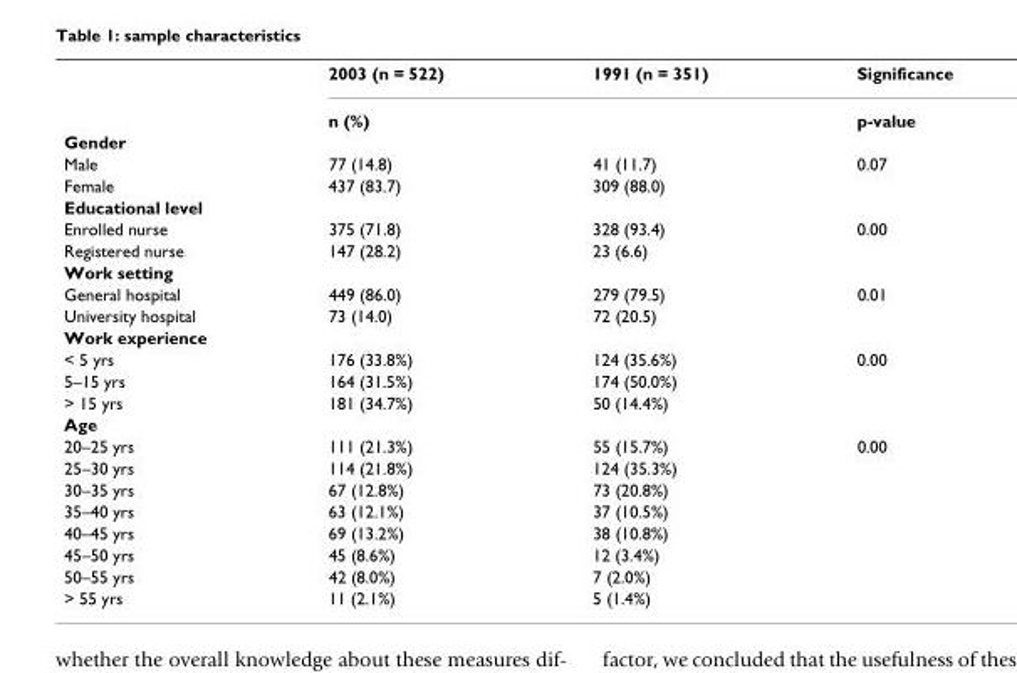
<table><thead><tr><td></td><td>2003 (n = 522)</td><td>1991 (n = 351)</td><td>Significance</td></tr></thead><tbody><tr><td></td><td>n (%)</td><td></td><td>p-value</td></tr><tr><td colspan="4">Gender</td></tr><tr><td>Male</td><td>77 (14.8)</td><td>41 (11.7)</td><td>0.07</td></tr><tr><td>Female</td><td>437 (83.7)</td><td>309 (88.0)</td><td></td></tr><tr><td colspan="4">Educational level</td></tr><tr><td>Enrolled nurse</td><td>375 (71.8)</td><td>328 (93.4)</td><td>0.00</td></tr><tr><td>Registered nurse</td><td>147 (28.2)</td><td>23 (6.6)</td><td></td></tr><tr><td colspan="4">Work setting</td></tr><tr><td>General hospital</td><td>449 (86.0)</td><td>279 (79.5)</td><td>0.01</td></tr><tr><td>University hospital</td><td>73 (14.0)</td><td>72 (20.5)</td><td></td></tr><tr><td colspan="4">Work experience</td></tr><tr><td>&lt; 5 yrs</td><td>176 (33.8%)</td><td>124 (35.6%)</td><td>0.00</td></tr><tr><td>5–15 yrs</td><td>164 (31.5%)</td><td>174 (50.0%)</td><td></td></tr><tr><td>&gt; 15 yrs</td><td>181 (34.7%)</td><td>50 (14.4%)</td><td></td></tr><tr><td colspan="4">Age</td></tr><tr><td>20–25 yrs</td><td>111 (21.3%)</td><td>55 (15.7%)</td><td>0.00</td></tr><tr><td>25–30 yrs</td><td>114 (21.8%)</td><td>124 (35.3%)</td><td></td></tr><tr><td>30–35 yrs</td><td>67 (12.8%)</td><td>73 (20.8%)</td><td></td></tr><tr><td>35–40 yrs</td><td>63 (12.1%)</td><td>37 (10.5%)</td><td></td></tr><tr><td>40–45 yrs</td><td>69 (13.2%)</td><td>38 (10.8%)</td><td></td></tr><tr><td>45–50 yrs</td><td>45 (8.6%)</td><td>12 (3.4%)</td><td></td></tr><tr><td>50–55 yrs</td><td>42 (8.0%)</td><td>7 (2.0%)</td><td></td></tr><tr><td>&gt; 55 yrs</td><td>11 (2.1%)</td><td>5 (1.4%)</td><td></td></tr></tbody></table>